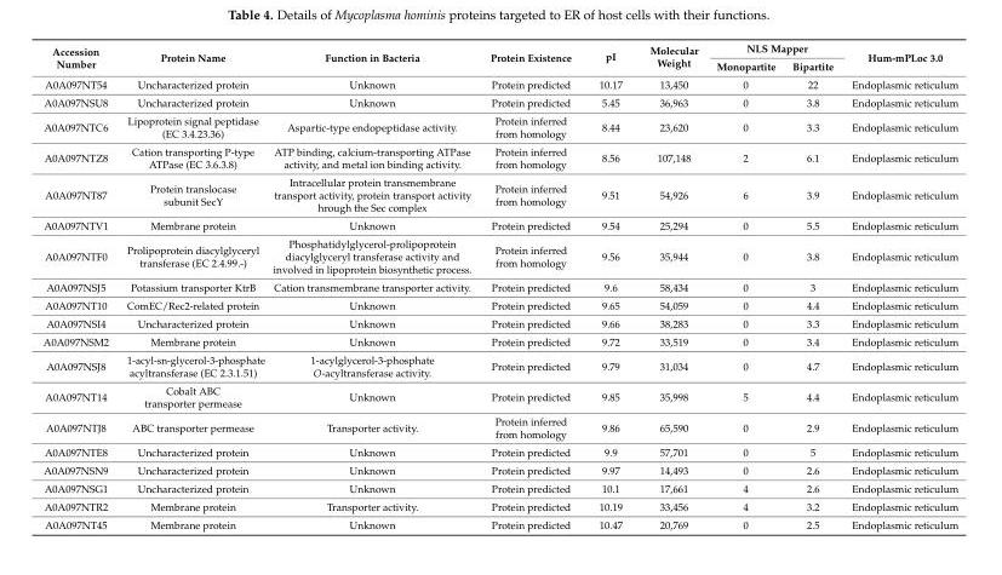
<table><thead><tr><td rowspan="2">Accession Number</td><td rowspan="2">Protein Name</td><td rowspan="2">Function in Bacteria</td><td rowspan="2">Protein Existence</td><td rowspan="2">pI</td><td rowspan="2">Molecular Weight</td><td colspan="2">NLS Mapper</td><td rowspan="2">Hum-mPLoc 3.0</td></tr><tr><td>Monopartite</td><td>Bipartite</td></tr></thead><tbody><tr><td>A0A097NT54</td><td>Uncharacterized protein</td><td>Unknown</td><td>Protein predicted</td><td>10.17</td><td>13,450</td><td>0</td><td>22</td><td>Endoplasmic reticulum</td></tr><tr><td>A0A097NSU8</td><td>Uncharacterized protein</td><td>Unknown</td><td>Protein predicted</td><td>5.45</td><td>36,963</td><td>0</td><td>3.8</td><td>Endoplasmic reticulum</td></tr><tr><td>A0A097NTC6</td><td>Lipoprotein signal peptidase (EC 3.4.23.36)</td><td>Aspartic-type endopeptidase activity.</td><td>Protein inferred from homology</td><td>8.44</td><td>23,620</td><td>0</td><td>3.3</td><td>Endoplasmic reticulum</td></tr><tr><td>A0A097NTZ8</td><td>Cation transporting P-type ATPase (EC 3.6.3.8)</td><td>ATP binding, calcium-transporting ATPase activity, and metal ion binding activity.</td><td>Protein inferred from homology</td><td>8.56</td><td>107,148</td><td>2</td><td>6.1</td><td>Endoplasmic reticulum</td></tr><tr><td>A0A097NT87</td><td>Protein translocase subunit SecY</td><td>Intracellular protein transmembrane transport activity, protein transport activity hrough the Sec complex</td><td>Protein inferred from homology</td><td>9.51</td><td>54,926</td><td>6</td><td>3.9</td><td>Endoplasmic reticulum</td></tr><tr><td>A0A097NTV1</td><td>Membrane protein</td><td>Unknown</td><td>Protein predicted</td><td>9.54</td><td>25,294</td><td>0</td><td>5.5</td><td>Endoplasmic reticulum</td></tr><tr><td>A0A097NTF0</td><td>Prolipoprotein diacylglyceryl transferase (EC 2.4.99.-)</td><td>Phosphatidylglycerol-prolipoprotein diacylglyceryl transferase activity and involved in lipoprotein biosynthetic process.</td><td>Protein inferred from homology</td><td>9.56</td><td>35,944</td><td>0</td><td>3.8</td><td>Endoplasmic reticulum</td></tr><tr><td>A0A097NSJ5</td><td>Potassium transporter KtrB</td><td>Cation transmembrane transporter activity.</td><td>Protein predicted</td><td>9.6</td><td>58,434</td><td>0</td><td>3</td><td>Endoplasmic reticulum</td></tr><tr><td>A0A097NT10</td><td>ComEC/Rec2-related protein</td><td>Unknown</td><td>Protein predicted</td><td>9.65</td><td>54,059</td><td>0</td><td>4.4</td><td>Endoplasmic reticulum</td></tr><tr><td>A0A097NSI4</td><td>Uncharacterized protein</td><td>Unknown</td><td>Protein predicted</td><td>9.66</td><td>38,283</td><td>0</td><td>3.3</td><td>Endoplasmic reticulum</td></tr><tr><td>A0A097NSM2</td><td>Membrane protein</td><td>Unknown</td><td>Protein predicted</td><td>9.72</td><td>33,519</td><td>0</td><td>3.4</td><td>Endoplasmic reticulum</td></tr><tr><td>A0A097NSJ8</td><td>1-acyl-sn-glycerol-3-phosphate acyltransferase (EC 2.3.1.51)</td><td>1-acylglycerol-3-phosphate O-acyltransferase activity.</td><td>Protein predicted</td><td>9.79</td><td>31,034</td><td>0</td><td>4.7</td><td>Endoplasmic reticulum</td></tr><tr><td>A0A097NT14</td><td>Cobalt ABC transporter permease</td><td>Unknown</td><td>Protein predicted</td><td>9.85</td><td>35,998</td><td>5</td><td>4.4</td><td>Endoplasmic reticulum</td></tr><tr><td>A0A097NTJ8</td><td>ABC transporter permease</td><td>Transporter activity.</td><td>Protein inferred from homology</td><td>9.86</td><td>65,590</td><td>0</td><td>2.9</td><td>Endoplasmic reticulum</td></tr><tr><td>A0A097NTE8</td><td>Uncharacterized protein</td><td>Unknown</td><td>Protein predicted</td><td>9.9</td><td>57,701</td><td>0</td><td>5</td><td>Endoplasmic reticulum</td></tr><tr><td>A0A097NSN9</td><td>Uncharacterized protein</td><td>Unknown</td><td>Protein predicted</td><td>9.97</td><td>14,493</td><td>0</td><td>2.6</td><td>Endoplasmic reticulum</td></tr><tr><td>A0A097NSG1</td><td>Uncharacterized protein</td><td>Unknown</td><td>Protein predicted</td><td>10.1</td><td>17,661</td><td>4</td><td>2.6</td><td>Endoplasmic reticulum</td></tr><tr><td>A0A097NTR2</td><td>Membrane protein</td><td>Transporter activity.</td><td>Protein predicted</td><td>10.19</td><td>33,456</td><td>4</td><td>3.2</td><td>Endoplasmic reticulum</td></tr><tr><td>A0A097NT45</td><td>Membrane protein</td><td>Unknown</td><td>Protein predicted</td><td>10.47</td><td>20,769</td><td>0</td><td>2.5</td><td>Endoplasmic reticulum</td></tr></tbody></table>